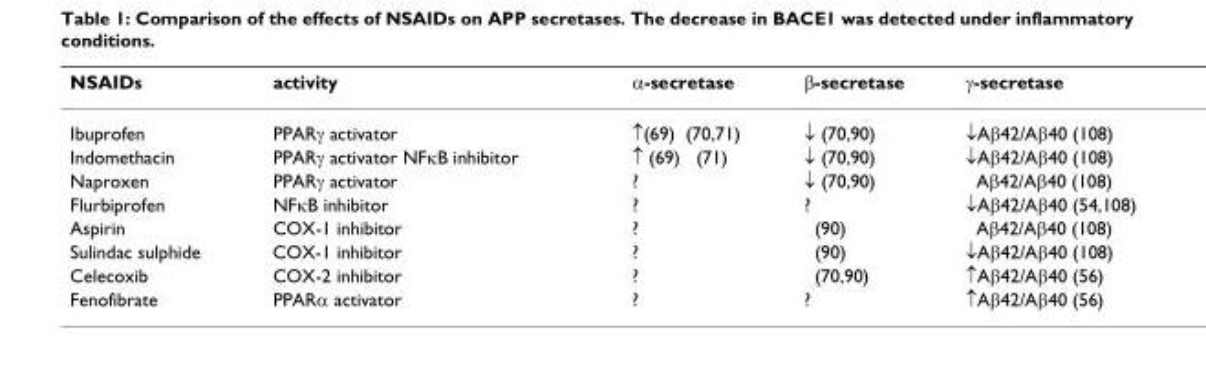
<table><thead><tr><td>NSAIDs</td><td>activity</td><td>α-secretase</td><td>β-secretase</td><td>γ-secretase</td></tr></thead><tbody><tr><td>Ibuprofen</td><td>PPARγ activator</td><td>↑(69) (70,71)</td><td>↓ (70,90)</td><td>↓Aβ42/Aβ40 (108)</td></tr><tr><td>Indomethacin</td><td>PPARγ activator NFκB inhibitor</td><td>↑ (69) (71)</td><td>↓ (70,90)</td><td>↓Aβ42/Aβ40 (108)</td></tr><tr><td>Naproxen</td><td>PPARγ activator</td><td>?</td><td>↓ (70,90)</td><td>Aβ42/Aβ40 (108)</td></tr><tr><td>Flurbiprofen</td><td>NFκB inhibitor</td><td>?</td><td>?</td><td>↓Aβ42/Aβ40 (54,108)</td></tr><tr><td>Aspirin</td><td>COX-1 inhibitor</td><td>?</td><td>(90)</td><td>Aβ42/Aβ40 (108)</td></tr><tr><td>Sulindac sulphide</td><td>COX-1 inhibitor</td><td>?</td><td>(90)</td><td>↓Aβ42/Aβ40 (108)</td></tr><tr><td>Celecoxib</td><td>COX-2 inhibitor</td><td>?</td><td>(70,90)</td><td>↑Aβ42/Aβ40 (56)</td></tr><tr><td>Fenofibrate</td><td>PPARα activator</td><td>?</td><td>?</td><td>↑Aβ42/Aβ40 (56)</td></tr></tbody></table>